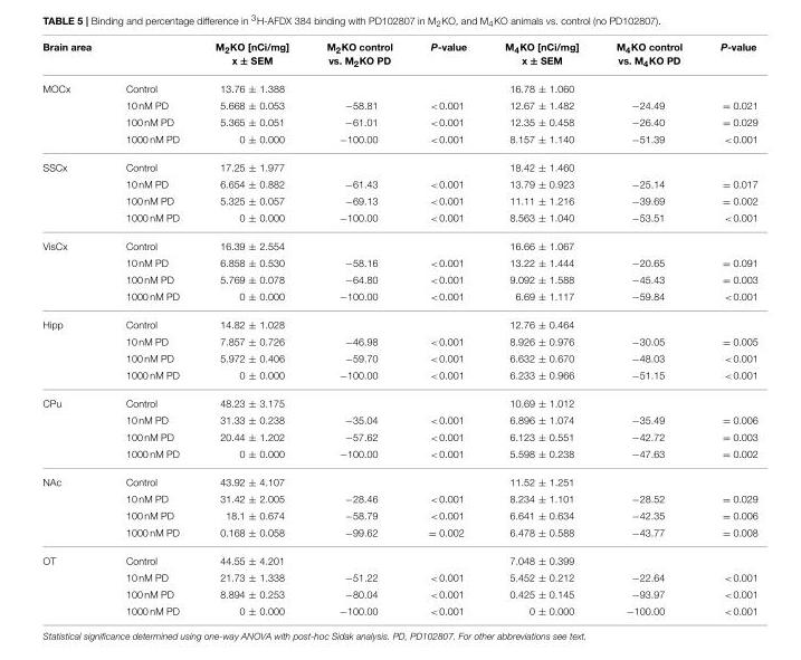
<table><thead><tr><td>Brain area</td><td></td><td>M<sub>2</sub>KO [nCi/mg] x ± SEM</td><td>M<sub>2</sub>KO control vs. M<sub>2</sub>KO PD</td><td>P-value</td><td>M<sub>4</sub>KO [nCi/mg] x ± SEM</td><td>M<sub>4</sub>KO control vs. M<sub>4</sub>KO PD</td><td>P-value</td></tr></thead><tbody><tr><td rowspan="4">MOCx</td><td>Control</td><td>13.76 ± 1.388</td><td></td><td></td><td>16.78 ± 1.060</td><td></td><td></td></tr><tr><td>10 nM PD</td><td>5.668 ± 0.053</td><td>−58.81</td><td>&lt;0.001</td><td>12.67 ± 1.482</td><td>−24.49</td><td>= 0.021</td></tr><tr><td>100 nM PD</td><td>5.365 ± 0.051</td><td>−61.01</td><td>&lt;0.001</td><td>12.35 ± 0.458</td><td>−26.40</td><td>= 0.029</td></tr><tr><td>1000 nM PD</td><td>0 ± 0.000</td><td>−100.00</td><td>&lt;0.001</td><td>8.157 ± 1.140</td><td>−51.39</td><td>&lt;0.001</td></tr><tr><td rowspan="4">SSCx</td><td>Control</td><td>17.25 ± 1.977</td><td></td><td></td><td>18.42 ± 1.460</td><td></td><td></td></tr><tr><td>10 nM PD</td><td>6.654 ± 0.882</td><td>−61.43</td><td>&lt;0.001</td><td>13.79 ± 0.923</td><td>−25.14</td><td>= 0.017</td></tr><tr><td>100 nM PD</td><td>5.325 ± 0.057</td><td>−69.13</td><td>&lt;0.001</td><td>11.11 ± 1.216</td><td>−39.69</td><td>= 0.002</td></tr><tr><td>1000 nM PD</td><td>0 ± 0.000</td><td>−100.00</td><td>&lt;0.001</td><td>8.563 ± 1.040</td><td>−53.51</td><td>&lt;0.001</td></tr><tr><td rowspan="4">VisCx</td><td>Control</td><td>16.39 ± 2.554</td><td></td><td></td><td>16.66 ± 1.067</td><td></td><td></td></tr><tr><td>10 nM PD</td><td>6.858 ± 0.530</td><td>−58.16</td><td>&lt;0.001</td><td>13.22 ± 1.444</td><td>−20.65</td><td>= 0.091</td></tr><tr><td>100 nM PD</td><td>5.769 ± 0.078</td><td>−64.80</td><td>&lt;0.001</td><td>9.092 ± 1.588</td><td>−45.43</td><td>= 0.003</td></tr><tr><td>1000 nM PD</td><td>0 ± 0.000</td><td>−100.00</td><td>&lt;0.001</td><td>6.69 ± 1.117</td><td>−59.84</td><td>&lt;0.001</td></tr><tr><td rowspan="4">Hipp</td><td>Control</td><td>14.82 ± 1.028</td><td></td><td></td><td>12.76 ± 0.464</td><td></td><td></td></tr><tr><td>10 nM PD</td><td>7.857 ± 0.726</td><td>−46.98</td><td>&lt;0.001</td><td>8.926 ± 0.976</td><td>−30.05</td><td>= 0.005</td></tr><tr><td>100 nM PD</td><td>5.972 ± 0.406</td><td>−59.70</td><td>&lt;0.001</td><td>6.632 ± 0.670</td><td>−48.03</td><td>&lt;0.001</td></tr><tr><td>1000 nM PD</td><td>0 ± 0.000</td><td>−100.00</td><td>&lt;0.001</td><td>6.233 ± 0.966</td><td>−51.15</td><td>&lt;0.001</td></tr><tr><td rowspan="4">CPu</td><td>Control</td><td>48.23 ± 3.175</td><td></td><td></td><td>10.69 ± 1.012</td><td></td><td></td></tr><tr><td>10 nM PD</td><td>31.33 ± 0.238</td><td>−35.04</td><td>&lt;0.001</td><td>6.896 ± 1.074</td><td>−35.49</td><td>= 0.006</td></tr><tr><td>100 nM PD</td><td>20.44 ± 1.202</td><td>−57.62</td><td>&lt;0.001</td><td>6.123 ± 0.551</td><td>−42.72</td><td>= 0.003</td></tr><tr><td>1000 nM PD</td><td>0 ± 0.000</td><td>−100.00</td><td>&lt;0.001</td><td>5.598 ± 0.238</td><td>−47.63</td><td>= 0.002</td></tr><tr><td rowspan="4">NAc</td><td>Control</td><td>43.92 ± 4.107</td><td></td><td></td><td>11.52 ± 1.251</td><td></td><td></td></tr><tr><td>10 nM PD</td><td>31.42 ± 2.005</td><td>−28.46</td><td>&lt;0.001</td><td>8.234 ± 1.101</td><td>−28.52</td><td>= 0.029</td></tr><tr><td>100 nM PD</td><td>18.1 ± 0.674</td><td>−58.79</td><td>&lt;0.001</td><td>6.641 ± 0.634</td><td>−42.35</td><td>= 0.006</td></tr><tr><td>1000 nM PD</td><td>0.168 ± 0.058</td><td>−99.62</td><td>= 0.002</td><td>6.478 ± 0.588</td><td>−43.77</td><td>= 0.008</td></tr><tr><td rowspan="4">OT</td><td>Control</td><td>44.55 ± 4.201</td><td></td><td></td><td>7.048 ± 0.399</td><td></td><td></td></tr><tr><td>10 nM PD</td><td>21.73 ± 1.338</td><td>−51.22</td><td>&lt;0.001</td><td>5.452 ± 0.212</td><td>−22.64</td><td>&lt;0.001</td></tr><tr><td>100 nM PD</td><td>8.894 ± 0.253</td><td>−80.04</td><td>&lt;0.001</td><td>0.425 ± 0.145</td><td>−93.97</td><td>&lt;0.001</td></tr><tr><td>1000 nM PD</td><td>0 ± 0.000</td><td>−100.00</td><td>&lt;0.001</td><td>0 ± 0.000</td><td>−100.00</td><td>&lt;0.001</td></tr></tbody></table>